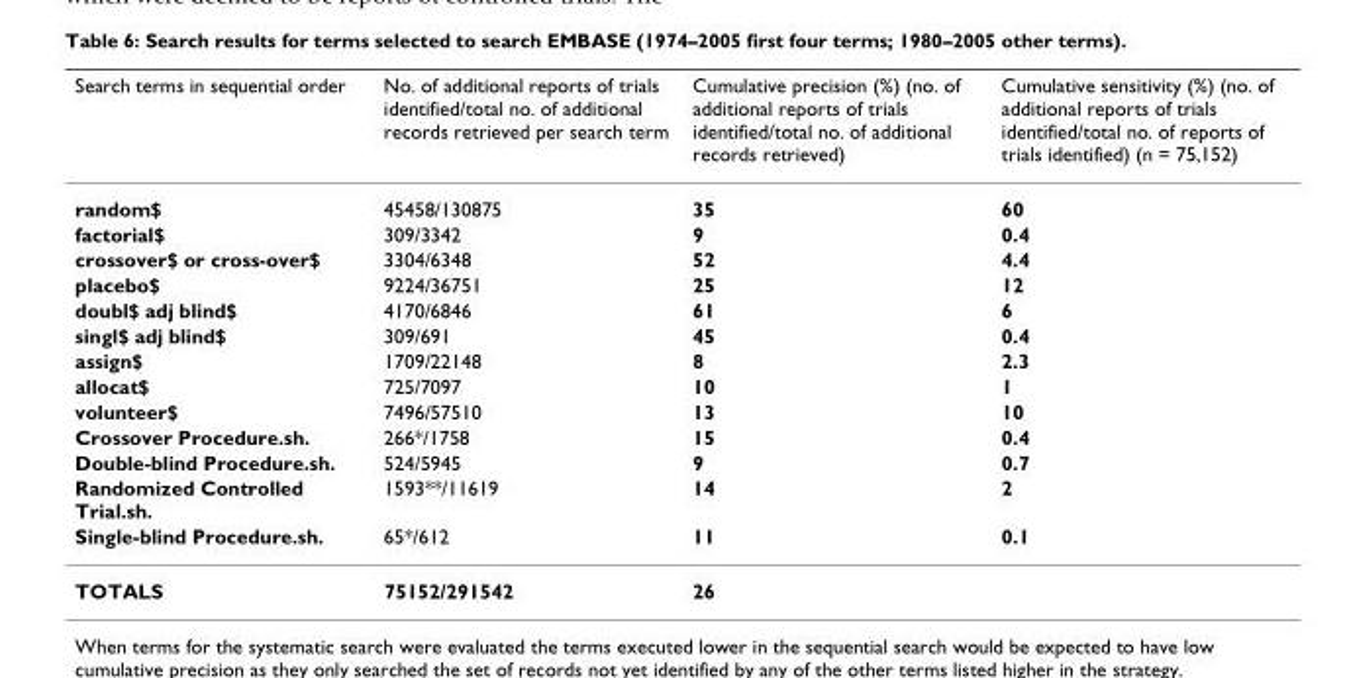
<table><thead><tr><td>Search terms in sequential order</td><td>No. of additional reports of trials identified/total no. of additional records retrieved per search term</td><td>Cumulative precision (%) (no. of additional reports of trials identified/total no. of additional records retrieved)</td><td>Cumulative sensitivity (%) (no. of additional reports of trials identified/total no. of reports of trials identified) (n = 75,152)</td></tr></thead><tbody><tr><td>random$</td><td>45458/130875</td><td>35</td><td>60</td></tr><tr><td>factorial$</td><td>309/3342</td><td>9</td><td>0.4</td></tr><tr><td>crossover$ or cross-over$</td><td>3304/6348</td><td>52</td><td>4.4</td></tr><tr><td>placebo$</td><td>9224/36751</td><td>25</td><td>12</td></tr><tr><td>doubl$ adj blind$</td><td>4170/6846</td><td>61</td><td>6</td></tr><tr><td>singl$ adj blind$</td><td>309/691</td><td>45</td><td>0.4</td></tr><tr><td>assign$</td><td>1709/22148</td><td>8</td><td>2.3</td></tr><tr><td>allocat$</td><td>725/7097</td><td>10</td><td>1</td></tr><tr><td>volunteer$</td><td>7496/57510</td><td>13</td><td>10</td></tr><tr><td>Crossover Procedure.sh.</td><td>266*/1758</td><td>15</td><td>0.4</td></tr><tr><td>Double-blind Procedure.sh.</td><td>524/5945</td><td>9</td><td>0.7</td></tr><tr><td>Randomized Controlled Trial.sh.</td><td>1593**/11619</td><td>14</td><td>2</td></tr><tr><td>Single-blind Procedure.sh.</td><td>65*/612</td><td>11</td><td>0.1</td></tr><tr><td>TOTALS</td><td>75152/291542</td><td>26</td><td></td></tr></tbody></table>